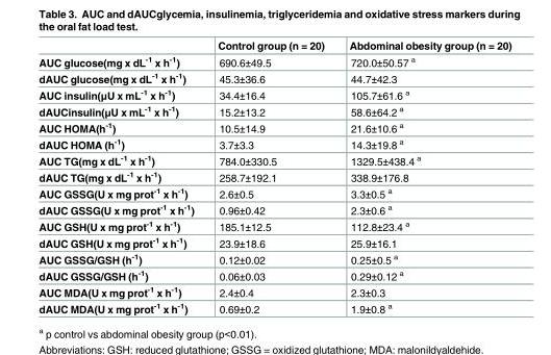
<table><thead><tr><td></td><td>Control group (n = 20)</td><td>Abdominal obesity group (n = 20)</td></tr></thead><tbody><tr><td>AUC glucose(mg x dL<sup>-1</sup> x h<sup>-1</sup>)</td><td>690.6±49.5</td><td>720.0±50.57 <sup>a</sup></td></tr><tr><td>dAUC glucose(mg x dL<sup>-1</sup> x h<sup>-1</sup>)</td><td>45.3±36.6</td><td>44.7±42.3</td></tr><tr><td>AUC insulin(μU x mL<sup>-1</sup> x h<sup>-1</sup>)</td><td>34.4±16.4</td><td>105.7±61.6 <sup>a</sup></td></tr><tr><td>dAUCinsulin(μU x mL<sup>-1</sup> x h<sup>-1</sup>)</td><td>15.2±13.2</td><td>58.6±64.2 <sup>a</sup></td></tr><tr><td>AUC HOMA(h<sup>-1</sup>)</td><td>10.5±14.9</td><td>21.6±10.6 <sup>a</sup></td></tr><tr><td>dAUC HOMA (h<sup>-1</sup>)</td><td>3.7±3.3</td><td>14.3±19.8 <sup>a</sup></td></tr><tr><td>AUC TG(mg x dL<sup>-1</sup> x h<sup>-1</sup>)</td><td>784.0±330.5</td><td>1329.5±438.4 <sup>a</sup></td></tr><tr><td>dAUC TG(mg x dL<sup>-1</sup> x h<sup>-1</sup>)</td><td>258.7±192.1</td><td>338.9±176.8</td></tr><tr><td>AUC GSSG(U x mg prot<sup>-1</sup> x h<sup>-1</sup>)</td><td>2.6±0.5</td><td>3.3±0.5 <sup>a</sup></td></tr><tr><td>dAUC GSSG(U x mg prot<sup>-1</sup> x h<sup>-1</sup>)</td><td>0.96±0.42</td><td>2.3±0.6 <sup>a</sup></td></tr><tr><td>AUC GSH(U x mg prot<sup>-1</sup> x h<sup>-1</sup>)</td><td>185.1±12.5</td><td>112.8±23.4 <sup>a</sup></td></tr><tr><td>dAUC GSH(U x mg prot<sup>-1</sup> x h<sup>-1</sup>)</td><td>23.9±18.6</td><td>25.9±16.1</td></tr><tr><td>AUC GSSG/GSH (h<sup>-1</sup>)</td><td>0.12±0.02</td><td>0.25±0.5 <sup>a</sup></td></tr><tr><td>dAUC GSSG/GSH (h<sup>-1</sup>)</td><td>0.06±0.03</td><td>0.29±0.12 <sup>a</sup></td></tr><tr><td>AUC MDA(U x mg prot<sup>-1</sup> x h<sup>-1</sup>)</td><td>2.4±0.4</td><td>2.3±0.3</td></tr><tr><td>dAUC MDA(U x mg prot<sup>-1</sup> x h<sup>-1</sup>)</td><td>0.69±0.2</td><td>1.9±0.8 <sup>a</sup></td></tr></tbody></table>